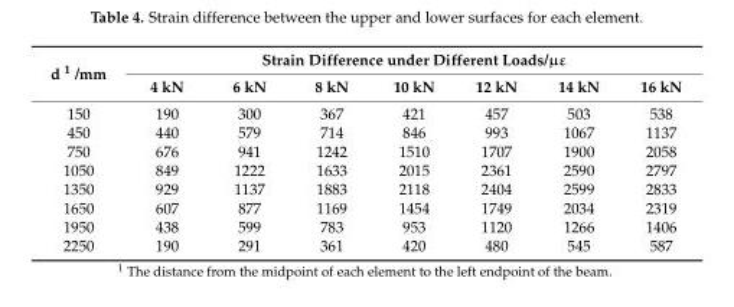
<table><thead><tr><td rowspan="2">d <sup>1</sup> /mm</td><td colspan="7">Strain Difference under Different Loads/µε</td></tr><tr><td>4 kN</td><td>6 kN</td><td>8 kN</td><td>10 kN</td><td>12 kN</td><td>14 kN</td><td>16 kN</td></tr></thead><tbody><tr><td>150</td><td>190</td><td>300</td><td>367</td><td>421</td><td>457</td><td>503</td><td>538</td></tr><tr><td>450</td><td>440</td><td>579</td><td>714</td><td>846</td><td>993</td><td>1067</td><td>1137</td></tr><tr><td>750</td><td>676</td><td>941</td><td>1242</td><td>1510</td><td>1707</td><td>1900</td><td>2058</td></tr><tr><td>1050</td><td>849</td><td>1222</td><td>1633</td><td>2015</td><td>2361</td><td>2590</td><td>2797</td></tr><tr><td>1350</td><td>929</td><td>1137</td><td>1883</td><td>2118</td><td>2404</td><td>2599</td><td>2833</td></tr><tr><td>1650</td><td>607</td><td>877</td><td>1169</td><td>1454</td><td>1749</td><td>2034</td><td>2319</td></tr><tr><td>1950</td><td>438</td><td>599</td><td>783</td><td>953</td><td>1120</td><td>1266</td><td>1406</td></tr><tr><td>2250</td><td>190</td><td>291</td><td>361</td><td>420</td><td>480</td><td>545</td><td>587</td></tr></tbody></table>